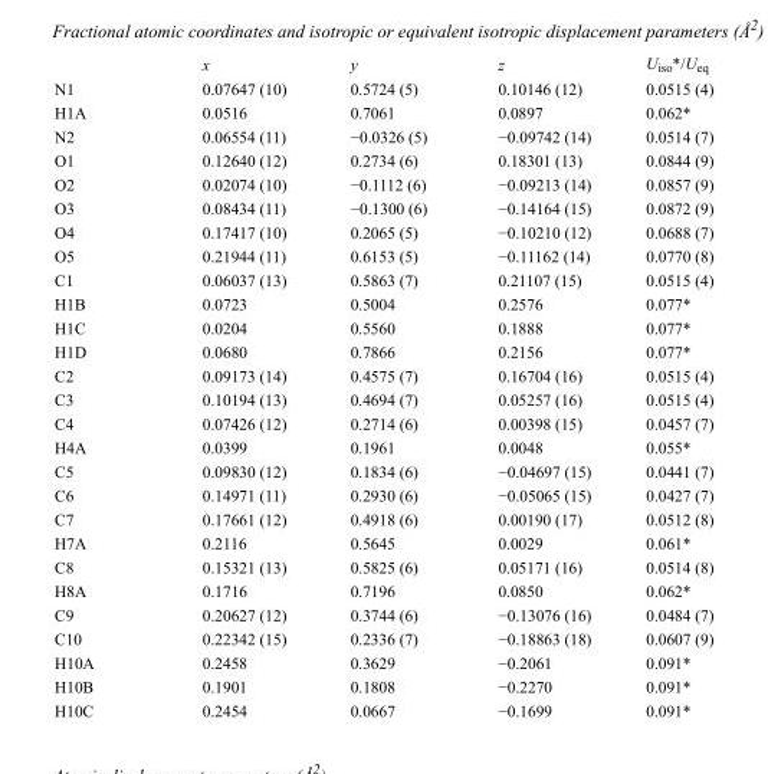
<table><thead><tr><td></td><td>x</td><td>y</td><td>z</td><td>U<sub>iso</sub>*/U<sub>eq</sub></td></tr></thead><tbody><tr><td>N1</td><td>0.07647 (10)</td><td>0.5724 (5)</td><td>0.10146 (12)</td><td>0.0515 (4)</td></tr><tr><td>H1A</td><td>0.0516</td><td>0.7061</td><td>0.0897</td><td>0.062*</td></tr><tr><td>N2</td><td>0.06554 (11)</td><td>−0.0326 (5)</td><td>−0.09742 (14)</td><td>0.0514 (7)</td></tr><tr><td>O1</td><td>0.12640 (12)</td><td>0.2734 (6)</td><td>0.18301 (13)</td><td>0.0844 (9)</td></tr><tr><td>O2</td><td>0.02074 (10)</td><td>−0.1112 (6)</td><td>−0.09213 (14)</td><td>0.0857 (9)</td></tr><tr><td>O3</td><td>0.08434 (11)</td><td>−0.1300 (6)</td><td>−0.14164 (15)</td><td>0.0872 (9)</td></tr><tr><td>O4</td><td>0.17417 (10)</td><td>0.2065 (5)</td><td>−0.10210 (12)</td><td>0.0688 (7)</td></tr><tr><td>O5</td><td>0.21944 (11)</td><td>0.6153 (5)</td><td>−0.11162 (14)</td><td>0.0770 (8)</td></tr><tr><td>C1</td><td>0.06037 (13)</td><td>0.5863 (7)</td><td>0.21107 (15)</td><td>0.0515 (4)</td></tr><tr><td>H1B</td><td>0.0723</td><td>0.5004</td><td>0.2576</td><td>0.077*</td></tr><tr><td>H1C</td><td>0.0204</td><td>0.5560</td><td>0.1888</td><td>0.077*</td></tr><tr><td>H1D</td><td>0.0680</td><td>0.7866</td><td>0.2156</td><td>0.077*</td></tr><tr><td>C2</td><td>0.09173 (14)</td><td>0.4575 (7)</td><td>0.16704 (16)</td><td>0.0515 (4)</td></tr><tr><td>C3</td><td>0.10194 (13)</td><td>0.4694 (7)</td><td>0.05257 (16)</td><td>0.0515 (4)</td></tr><tr><td>C4</td><td>0.07426 (12)</td><td>0.2714 (6)</td><td>0.00398 (15)</td><td>0.0457 (7)</td></tr><tr><td>H4A</td><td>0.0399</td><td>0.1961</td><td>0.0048</td><td>0.055*</td></tr><tr><td>C5</td><td>0.09830 (12)</td><td>0.1834 (6)</td><td>−0.04697 (15)</td><td>0.0441 (7)</td></tr><tr><td>C6</td><td>0.14971 (11)</td><td>0.2930 (6)</td><td>−0.05065 (15)</td><td>0.0427 (7)</td></tr><tr><td>C7</td><td>0.17661 (12)</td><td>0.4918 (6)</td><td>0.00190 (17)</td><td>0.0512 (8)</td></tr><tr><td>H7A</td><td>0.2116</td><td>0.5645</td><td>0.0029</td><td>0.061*</td></tr><tr><td>C8</td><td>0.15321 (13)</td><td>0.5825 (6)</td><td>0.05171 (16)</td><td>0.0514 (8)</td></tr><tr><td>H8A</td><td>0.1716</td><td>0.7196</td><td>0.0850</td><td>0.062*</td></tr><tr><td>C9</td><td>0.20627 (12)</td><td>0.3744 (6)</td><td>−0.13076 (16)</td><td>0.0484 (7)</td></tr><tr><td>C10</td><td>0.22342 (15)</td><td>0.2336 (7)</td><td>−0.18863 (18)</td><td>0.0607 (9)</td></tr><tr><td>H10A</td><td>0.2458</td><td>0.3629</td><td>−0.2061</td><td>0.091*</td></tr><tr><td>H10B</td><td>0.1901</td><td>0.1808</td><td>−0.2270</td><td>0.091*</td></tr><tr><td>H10C</td><td>0.2454</td><td>0.0667</td><td>−0.1699</td><td>0.091*</td></tr></tbody></table>